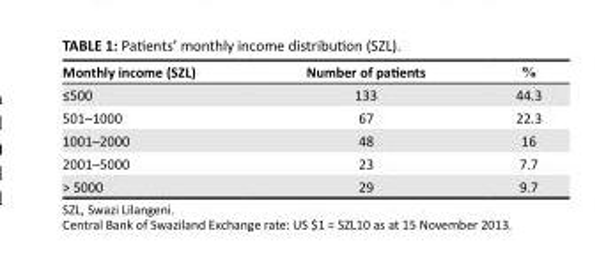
<table><thead><tr><td>Monthly income (SZL)</td><td>Number of patients</td><td>%</td></tr></thead><tbody><tr><td>≤500</td><td>133</td><td>44.3</td></tr><tr><td>501–1000</td><td>67</td><td>22.3</td></tr><tr><td>1001–2000</td><td>48</td><td>16</td></tr><tr><td>2001–5000</td><td>23</td><td>7.7</td></tr><tr><td>˃ 5000</td><td>29</td><td>9.7</td></tr></tbody></table>